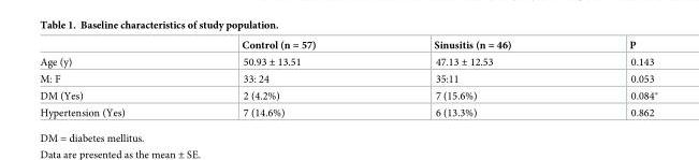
<table><thead><tr><td></td><td>Control (n = 57)</td><td>Sinusitis (n = 46)</td><td>P</td></tr></thead><tbody><tr><td>Age (y)</td><td>50.93 ± 13.51</td><td>47.13 ± 12.53</td><td>0.143</td></tr><tr><td>M: F</td><td>33: 24</td><td>35:11</td><td>0.053</td></tr><tr><td>DM (Yes)</td><td>2 (4.2%)</td><td>7 (15.6%)</td><td>0.084*</td></tr><tr><td>Hypertension (Yes)</td><td>7 (14.6%)</td><td>6 (13.3%)</td><td>0.862</td></tr></tbody></table>